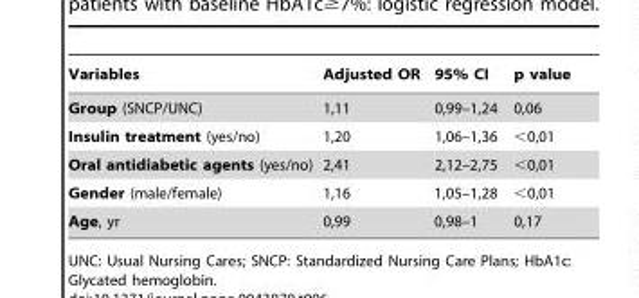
<table><thead><tr><td>Variables</td><td>Adjusted OR</td><td>95% CI</td><td>p value</td></tr></thead><tbody><tr><td>Group (SNCP/UNC)</td><td>1,11</td><td>0,99–1,24</td><td>0,06</td></tr><tr><td>Insulin treatment (yes/no)</td><td>1,20</td><td>1,06–1,36</td><td>&lt;0,01</td></tr><tr><td>Oral antidiabetic agents (yes/no)</td><td>2,41</td><td>2,12–2,75</td><td>&lt;0,01</td></tr><tr><td>Gender (male/female)</td><td>1,16</td><td>1,05–1,28</td><td>&lt;0,01</td></tr><tr><td>Age, yr</td><td>0,99</td><td>0,98–1</td><td>0,17</td></tr></tbody></table>